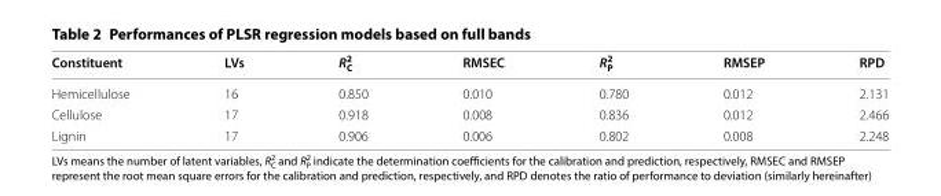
<table><thead><tr><td>Constituent</td><td>LVs</td><td>R<sub>C</sub> <sup>2</sup></td><td>RMSEC</td><td>R<sub>P</sub> <sup>2</sup></td><td>RMSEP</td><td>RPD</td></tr></thead><tbody><tr><td>Hemicellulose</td><td>16</td><td>0.850</td><td>0.010</td><td>0.780</td><td>0.012</td><td>2.131</td></tr><tr><td>Cellulose</td><td>17</td><td>0.918</td><td>0.008</td><td>0.836</td><td>0.012</td><td>2.466</td></tr><tr><td>Lignin</td><td>17</td><td>0.906</td><td>0.006</td><td>0.802</td><td>0.008</td><td>2.248</td></tr></tbody></table>